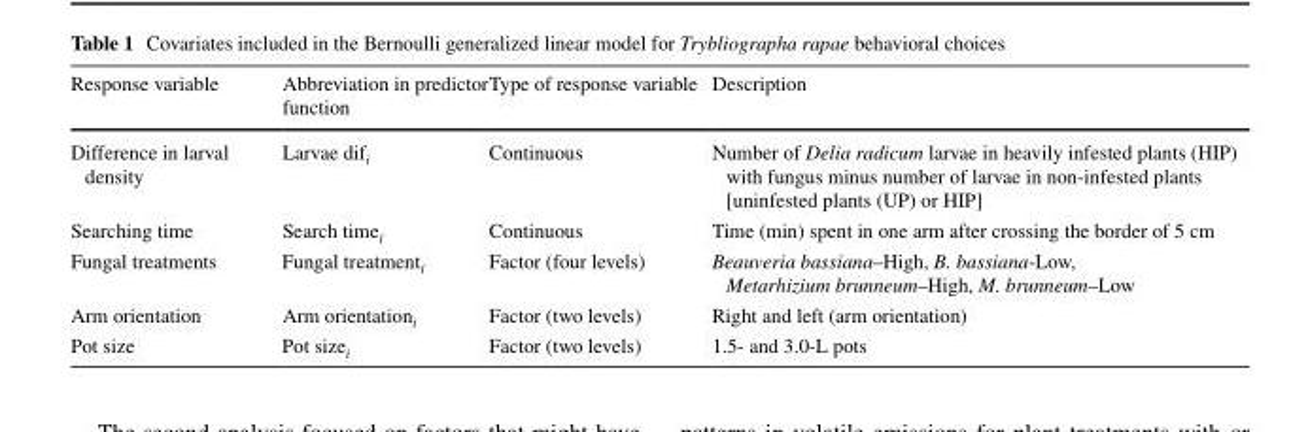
<table><thead><tr><td>Response variable</td><td>Abbreviation in predictor function</td><td>Type of response variable</td><td>Description</td></tr></thead><tbody><tr><td>Difference in larval density</td><td>Larvae dif<sub>i</sub></td><td>Continuous</td><td>Number of Delia radicum larvae in heavily infested plants (HIP) with fungus minus number of larvae in non-infested plants [uninfested plants (UP) or HIP]</td></tr><tr><td>Searching time</td><td>Search time<sub>i</sub></td><td>Continuous</td><td>Time (min) spent in one arm after crossing the border of 5 cm</td></tr><tr><td>Fungal treatments</td><td>Fungal treatment<sub>i</sub></td><td>Factor (four levels)</td><td>Beauveria bassiana–High, B. bassiana-Low, Metarhizium brunneum–High, M. brunneum–Low</td></tr><tr><td>Arm orientation</td><td>Arm orientation<sub>i</sub></td><td>Factor (two levels)</td><td>Right and left (arm orientation)</td></tr><tr><td>Pot size</td><td>Pot size<sub>i</sub></td><td>Factor (two levels)</td><td>1.5- and 3.0-L pots</td></tr></tbody></table>